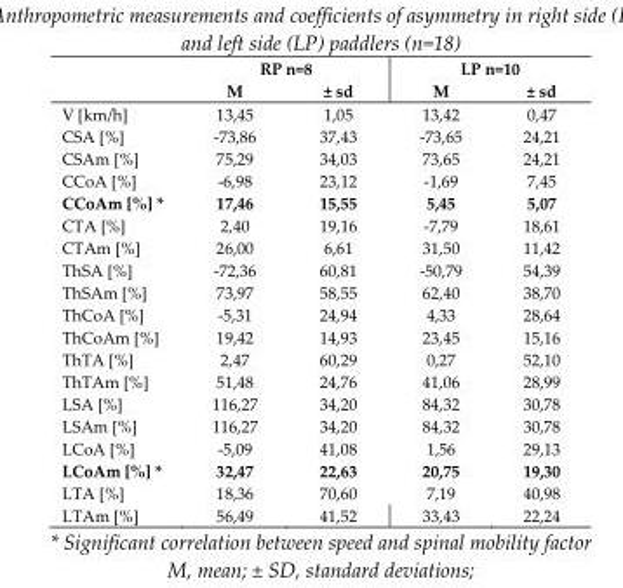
<table><thead><tr><td rowspan="2"></td><td colspan="2">RP n=8</td><td colspan="2">LP n=10</td></tr><tr><td>M</td><td>± sd</td><td>M</td><td>± sd</td></tr></thead><tbody><tr><td>V [km/h]</td><td>13,45</td><td>1,05</td><td>13,42</td><td>0,47</td></tr><tr><td>CSA [%]</td><td>-73,86</td><td>37,43</td><td>-73,65</td><td>24,21</td></tr><tr><td>CSAm [%]</td><td>75,29</td><td>34,03</td><td>73,65</td><td>24,21</td></tr><tr><td>CCoA [%]</td><td>-6,98</td><td>23,12</td><td>-1,69</td><td>7,45</td></tr><tr><td>CCoAm [%] *</td><td>17,46</td><td>15,55</td><td>5,45</td><td>5,07</td></tr><tr><td>CTA [%]</td><td>2,40</td><td>19,16</td><td>-7,79</td><td>18,61</td></tr><tr><td>CTAm [%]</td><td>26,00</td><td>6,61</td><td>31,50</td><td>11,42</td></tr><tr><td>ThSA [%]</td><td>-72,36</td><td>60,81</td><td>-50,79</td><td>54,39</td></tr><tr><td>ThSAm [%]</td><td>73,97</td><td>58,55</td><td>62,40</td><td>38,70</td></tr><tr><td>ThCoA [%]</td><td>-5,31</td><td>24,94</td><td>4,33</td><td>28,64</td></tr><tr><td>ThCoAm [%]</td><td>19,42</td><td>14,93</td><td>23,45</td><td>15,16</td></tr><tr><td>ThTA [%]</td><td>2,47</td><td>60,29</td><td>0,27</td><td>52,10</td></tr><tr><td>ThTAm [%]</td><td>51,48</td><td>24,76</td><td>41,06</td><td>28,99</td></tr><tr><td>LSA [%]</td><td>116,27</td><td>34,20</td><td>84,32</td><td>30,78</td></tr><tr><td>LSAm [%]</td><td>116,27</td><td>34,20</td><td>84,32</td><td>30,78</td></tr><tr><td>LCoA [%]</td><td>-5,09</td><td>41,08</td><td>1,56</td><td>29,13</td></tr><tr><td>LCoAm [%] *</td><td>32,47</td><td>22,63</td><td>20,75</td><td>19,30</td></tr><tr><td>LTA [%]</td><td>18,36</td><td>70,60</td><td>7,19</td><td>40,98</td></tr><tr><td>LTAm [%]</td><td>56,49</td><td>41,52</td><td>33,43</td><td>22,24</td></tr></tbody></table>